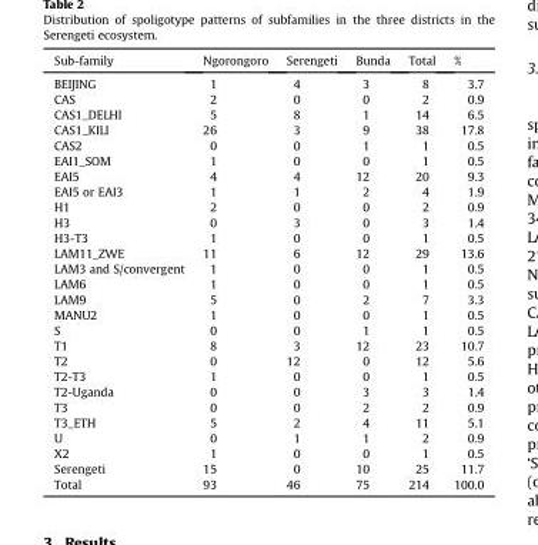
<table><thead><tr><td>Sub-family</td><td>Ngorongoro</td><td>Serengeti</td><td>Bunda</td><td>Total</td><td>%</td></tr></thead><tbody><tr><td>BEIJING</td><td>1</td><td>4</td><td>3</td><td>8</td><td>3.7</td></tr><tr><td>CAS</td><td>2</td><td>0</td><td>0</td><td>2</td><td>0.9</td></tr><tr><td>CAS1_DELHI</td><td>5</td><td>8</td><td>1</td><td>14</td><td>6.5</td></tr><tr><td>CAS1_KILI</td><td>26</td><td>3</td><td>9</td><td>38</td><td>17.8</td></tr><tr><td>CAS2</td><td>0</td><td>0</td><td>1</td><td>1</td><td>0.5</td></tr><tr><td>EAI1_SOM</td><td>1</td><td>0</td><td>0</td><td>1</td><td>0.5</td></tr><tr><td>EAI5</td><td>4</td><td>4</td><td>12</td><td>20</td><td>9.3</td></tr><tr><td>EAI5 or EAI3</td><td>1</td><td>1</td><td>2</td><td>4</td><td>1.9</td></tr><tr><td>H1</td><td>2</td><td>0</td><td>0</td><td>2</td><td>0.9</td></tr><tr><td>H3</td><td>0</td><td>3</td><td>0</td><td>3</td><td>1.4</td></tr><tr><td>H3-T3</td><td>1</td><td>0</td><td>0</td><td>1</td><td>0.5</td></tr><tr><td>LAM11_ZWE</td><td>11</td><td>6</td><td>12</td><td>29</td><td>13.6</td></tr><tr><td>LAM3 and S/convergent</td><td>1</td><td>0</td><td>0</td><td>1</td><td>0.5</td></tr><tr><td>LAM6</td><td>1</td><td>0</td><td>0</td><td>1</td><td>0.5</td></tr><tr><td>LAM9</td><td>5</td><td>0</td><td>2</td><td>7</td><td>3.3</td></tr><tr><td>MANU2</td><td>1</td><td>0</td><td>0</td><td>1</td><td>0.5</td></tr><tr><td>S</td><td>0</td><td>0</td><td>1</td><td>1</td><td>0.5</td></tr><tr><td>T1</td><td>8</td><td>3</td><td>12</td><td>23</td><td>10.7</td></tr><tr><td>T2</td><td>0</td><td>12</td><td>0</td><td>12</td><td>5.6</td></tr><tr><td>T2-T3</td><td>1</td><td>0</td><td>0</td><td>1</td><td>0.5</td></tr><tr><td>T2-Uganda</td><td>0</td><td>0</td><td>3</td><td>3</td><td>1.4</td></tr><tr><td>T3</td><td>0</td><td>0</td><td>2</td><td>2</td><td>0.9</td></tr><tr><td>T3_ETH</td><td>5</td><td>2</td><td>4</td><td>11</td><td>5.1</td></tr><tr><td>U</td><td>0</td><td>1</td><td>1</td><td>2</td><td>0.9</td></tr><tr><td>X2</td><td>1</td><td>0</td><td>0</td><td>1</td><td>0.5</td></tr><tr><td>Serengeti</td><td>15</td><td>0</td><td>10</td><td>25</td><td>11.7</td></tr><tr><td>Total</td><td>93</td><td>46</td><td>75</td><td>214</td><td>100.0</td></tr></tbody></table>